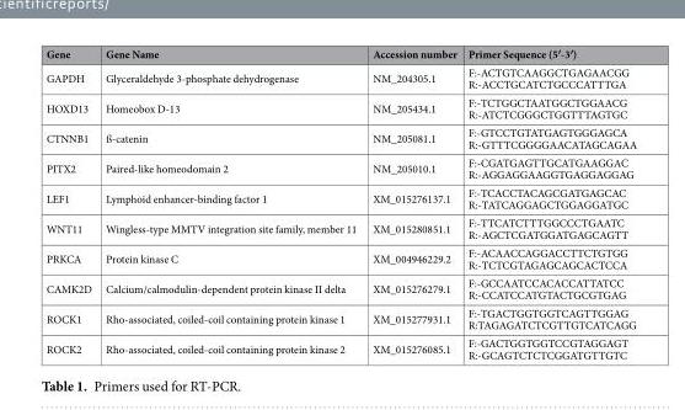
<table><thead><tr><td>Gene</td><td>Gene Name</td><td>Accession number</td><td>Primer Sequence (5′-3′)</td></tr></thead><tbody><tr><td>GAPDH</td><td>Glyceraldehyde 3-phosphate dehydrogenase</td><td>NM_204305.1</td><td>F:-ACTGTCAAGGCTGAGAACGG R:-ACCTGCATCTGCCCATTTGA</td></tr><tr><td>HOXD13</td><td>Homeobox D-13</td><td>NM_205434.1</td><td>F:-TCTGGCTAATGGCTGGAACG R:-ATCTCGGGCTGGTTTAGTGC</td></tr><tr><td>CTNNB1</td><td>ß-catenin</td><td>NM_205081.1</td><td>F:-GTCCTGTATGAGTGGGAGCA R:-GTTTCGGGGAACATAGCAGAA</td></tr><tr><td>PITX2</td><td>Paired-like homeodomain 2</td><td>NM_205010.1</td><td>F:-CGATGAGTTGCATGAAGGAC R:-AGGAGGAAGGTGAGGAGGAG</td></tr><tr><td>LEF1</td><td>Lymphoid enhancer-binding factor 1</td><td>XM_015276137.1</td><td>F:-TCACCTACAGCGATGAGCAC R:-TATCAGGAGCTGGAGGATGC</td></tr><tr><td>WNT11</td><td>Wingless-type MMTV integration site family, member 11</td><td>XM_015280851.1</td><td>F:-TTCATCTTTGGCCCTGAATC R:-AGCTCGATGGATGAGCAGTT</td></tr><tr><td>PRKCA</td><td>Protein kinase C</td><td>XM_004946229.2</td><td>F:-ACAACCAGGACCTTCTGTGG R:-TCTCGTAGAGCAGCACTCCA</td></tr><tr><td>CAMK2D</td><td>Calcium/calmodulin-dependent protein kinase II delta</td><td>XM_015276279.1</td><td>F:-GCCAATCCACACCATTATCC R:-CCATCCATGTACTGCGTGAG</td></tr><tr><td>ROCK1</td><td>Rho-associated, coiled-coil containing protein kinase 1</td><td>XM_015277931.1</td><td>F:-TGACTGGTGGTCAGTTGGAG R:TAGAGATCTCGTTGTCATCAGG</td></tr><tr><td>ROCK2</td><td>Rho-associated, coiled-coil containing protein kinase 2</td><td>XM_015276085.1</td><td>F:-GACTGGTGGTCCGTAGGAGT R:-GCAGTCTCTCGGATGTTGTC</td></tr></tbody></table>